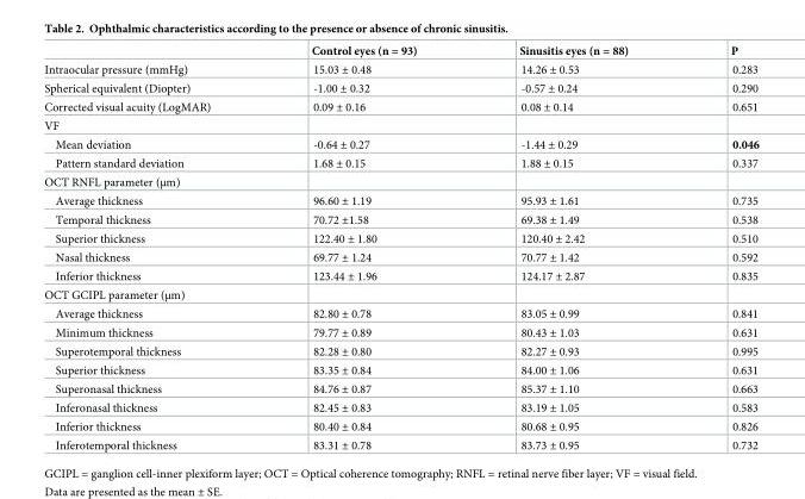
<table><thead><tr><td></td><td>Control eyes (n = 93)</td><td>Sinusitis eyes (n = 88)</td><td>P</td></tr></thead><tbody><tr><td>Intraocular pressure (mmHg)</td><td>15.03 ± 0.48</td><td>14.26 ± 0.53</td><td>0.283</td></tr><tr><td>Spherical equivalent (Diopter)</td><td>-1.00 ± 0.32</td><td>-0.57 ± 0.24</td><td>0.290</td></tr><tr><td>Corrected visual acuity (LogMAR)</td><td>0.09 ± 0.16</td><td>0.08 ± 0.14</td><td>0.651</td></tr><tr><td colspan="4">VF</td></tr><tr><td>Mean deviation</td><td>-0.64 ± 0.27</td><td>-1.44 ± 0.29</td><td>0.046</td></tr><tr><td>Pattern standard deviation</td><td>1.68 ± 0.15</td><td>1.88 ± 0.15</td><td>0.337</td></tr><tr><td colspan="4">OCT RNFL parameter (μm)</td></tr><tr><td>Average thickness</td><td>96.60 ± 1.19</td><td>95.93 ± 1.61</td><td>0.735</td></tr><tr><td>Temporal thickness</td><td>70.72 ±1.58</td><td>69.38 ± 1.49</td><td>0.538</td></tr><tr><td>Superior thickness</td><td>122.40 ± 1.80</td><td>120.40 ± 2.42</td><td>0.510</td></tr><tr><td>Nasal thickness</td><td>69.77 ± 1.24</td><td>70.77 ± 1.42</td><td>0.592</td></tr><tr><td>Inferior thickness</td><td>123.44 ± 1.96</td><td>124.17 ± 2.87</td><td>0.835</td></tr><tr><td colspan="4">OCT GCIPL parameter (μm)</td></tr><tr><td>Average thickness</td><td>82.80 ± 0.78</td><td>83.05 ± 0.99</td><td>0.841</td></tr><tr><td>Minimum thickness</td><td>79.77 ± 0.89</td><td>80.43 ± 1.03</td><td>0.631</td></tr><tr><td>Superotemporal thickness</td><td>82.28 ± 0.80</td><td>82.27 ± 0.93</td><td>0.995</td></tr><tr><td>Superior thickness</td><td>83.35 ± 0.84</td><td>84.00 ± 1.06</td><td>0.631</td></tr><tr><td>Superonasal thickness</td><td>84.76 ± 0.87</td><td>85.37 ± 1.10</td><td>0.663</td></tr><tr><td>Inferonasal thickness</td><td>82.45 ± 0.83</td><td>83.19 ± 1.05</td><td>0.583</td></tr><tr><td>Inferior thickness</td><td>80.40 ± 0.84</td><td>80.68 ± 0.95</td><td>0.826</td></tr><tr><td>Inferotemporal thickness</td><td>83.31 ± 0.78</td><td>83.73 ± 0.95</td><td>0.732</td></tr></tbody></table>